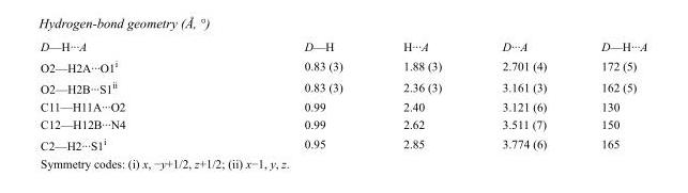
<table><tbody><tr><td>D—H···A</td><td>D—H</td><td>H···A</td><td>D···A</td><td>D—H···A</td></tr><tr><td>O2—H2A···O1<sup>i</sup></td><td>0.83 (3)</td><td>1.88 (3)</td><td>2.701 (4)</td><td>172 (5)</td></tr><tr><td>O2—H2B···S1<sup>ii</sup></td><td>0.83 (3)</td><td>2.36 (3)</td><td>3.161 (3)</td><td>162 (5)</td></tr><tr><td>C11—H11A···O2</td><td>0.99</td><td>2.40</td><td>3.121 (6)</td><td>130</td></tr><tr><td>C12—H12B···N4</td><td>0.99</td><td>2.62</td><td>3.511 (7)</td><td>150</td></tr><tr><td>C2—H2···S1<sup>i</sup></td><td>0.95</td><td>2.85</td><td>3.774 (6)</td><td>165</td></tr></tbody></table>